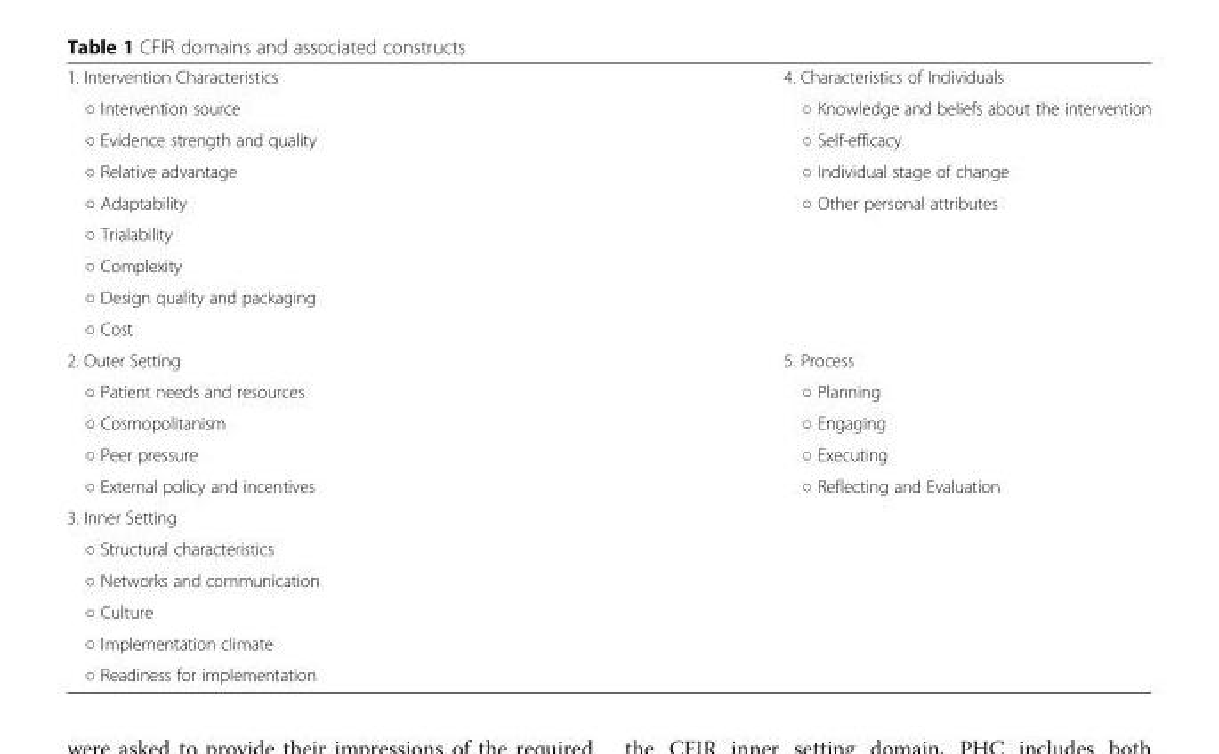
<table><tbody><tr><td>1. Intervention Characteristics</td><td>4. Characteristics of Individuals</td></tr><tr><td>○ Intervention source</td><td>○ Knowledge and beliefs about the intervention</td></tr><tr><td>○ Evidence strength and quality</td><td>○ Self-efficacy</td></tr><tr><td>○ Relative advantage</td><td>○ Individual stage of change</td></tr><tr><td>○ Adaptability</td><td>○ Other personal attributes</td></tr><tr><td colspan="2">○ Trialability</td></tr><tr><td colspan="2">○ Complexity</td></tr><tr><td colspan="2">○ Design quality and packaging</td></tr><tr><td colspan="2">○ Cost</td></tr><tr><td>2. Outer Setting</td><td>5. Process</td></tr><tr><td>○ Patient needs and resources</td><td>○ Planning</td></tr><tr><td>○ Cosmopolitanism</td><td>○ Engaging</td></tr><tr><td>○ Peer pressure</td><td>○ Executing</td></tr><tr><td>○ External policy and incentives</td><td>○ Reflecting and Evaluation</td></tr><tr><td colspan="2">3. Inner Setting</td></tr><tr><td colspan="2">○ Structural characteristics</td></tr><tr><td colspan="2">○ Networks and communication</td></tr><tr><td colspan="2">○ Culture</td></tr><tr><td colspan="2">○ Implementation climate</td></tr><tr><td>○ Readiness for implementation</td><td></td></tr></tbody></table>